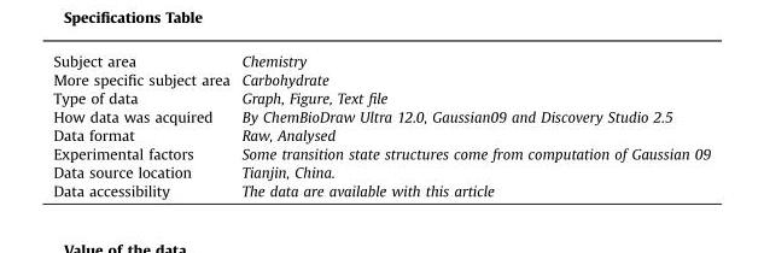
<table><tbody><tr><td>Subject area</td><td>Chemistry</td></tr><tr><td>More specific subject area</td><td>Carbohydrate</td></tr><tr><td>Type of data</td><td>Graph, Figure, Text file</td></tr><tr><td>How data was acquired</td><td>By ChemBioDraw Ultra 12.0, Gaussian09 and Discovery Studio 2.5</td></tr><tr><td>Data format</td><td>Raw, Analysed</td></tr><tr><td>Experimental factors</td><td>Some transition state structures come from computation of Gaussian 09</td></tr><tr><td>Data source location</td><td>Tianjin, China.</td></tr><tr><td>Data accessibility</td><td>The data are available with this article</td></tr></tbody></table>